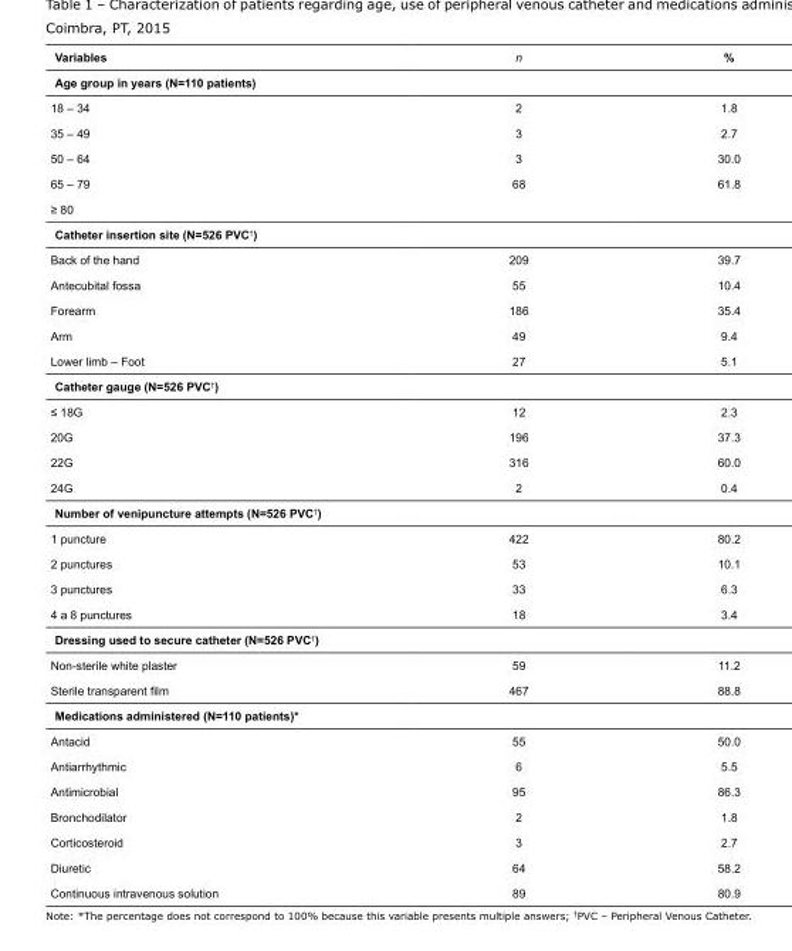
<table><tbody><tr><td>Variables</td><td>n</td><td>%</td></tr><tr><td colspan="3">Age group in years (N=110 patients)</td></tr><tr><td>18 – 34</td><td>2</td><td>1.8</td></tr><tr><td>35 – 49</td><td>3</td><td>2.7</td></tr><tr><td>50 – 64</td><td>3</td><td>30.0</td></tr><tr><td>65 – 79</td><td>68</td><td>61.8</td></tr><tr><td colspan="3">≥ 80</td></tr><tr><td colspan="3">Catheter insertion site (N=526 PVC<sup>†</sup>)</td></tr><tr><td>Back of the hand</td><td>209</td><td>39.7</td></tr><tr><td>Antecubital fossa</td><td>55</td><td>10.4</td></tr><tr><td>Forearm</td><td>186</td><td>35.4</td></tr><tr><td>Arm</td><td>49</td><td>9.4</td></tr><tr><td>Lower limb – Foot</td><td>27</td><td>5.1</td></tr><tr><td colspan="3">Catheter gauge (N=526 PVC<sup>†</sup>)</td></tr><tr><td>≤ 18G</td><td>12</td><td>2.3</td></tr><tr><td>20G</td><td>196</td><td>37.3</td></tr><tr><td>22G</td><td>316</td><td>60.0</td></tr><tr><td>24G</td><td>2</td><td>0.4</td></tr><tr><td colspan="3">Number of venipuncture attempts (N=526 PVC<sup>†</sup>)</td></tr><tr><td>1 puncture</td><td>422</td><td>80.2</td></tr><tr><td>2 punctures</td><td>53</td><td>10.1</td></tr><tr><td>3 punctures</td><td>33</td><td>6.3</td></tr><tr><td>4 a 8 punctures</td><td>18</td><td>3.4</td></tr><tr><td colspan="3">Dressing used to secure catheter (N=526 PVC<sup>†</sup>)</td></tr><tr><td>Non-sterile white plaster</td><td>59</td><td>11.2</td></tr><tr><td>Sterile transparent film</td><td>467</td><td>88.8</td></tr><tr><td colspan="3">Medications administered (N=110 patients)*</td></tr><tr><td>Antacid</td><td>55</td><td>50.0</td></tr><tr><td>Antiarrhythmic</td><td>6</td><td>5.5</td></tr><tr><td>Antimicrobial</td><td>95</td><td>86.3</td></tr><tr><td>Bronchodilator</td><td>2</td><td>1.8</td></tr><tr><td>Corticosteroid</td><td>3</td><td>2.7</td></tr><tr><td>Diuretic</td><td>64</td><td>58.2</td></tr><tr><td>Continuous intravenous solution</td><td>89</td><td>80.9</td></tr></tbody></table>